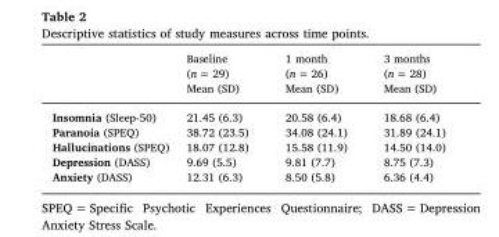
<table><thead><tr><td rowspan="2"></td><td rowspan="2">Baseline (n = 29) Mean (SD)</td><td rowspan="2">1 month (n = 26) Mean (SD)</td><td rowspan="2">3 months (n = 28) Mean (SD)</td></tr><tr></tr></thead><tbody><tr><td>Insomnia (Sleep-50)</td><td>21.45 (6.3)</td><td>20.58 (6.4)</td><td>18.68 (6.4)</td></tr><tr><td>Paranoia (SPEQ)</td><td>38.72 (23.5)</td><td>34.08 (24.1)</td><td>31.89 (24.1)</td></tr><tr><td>Hallucinations (SPEQ)</td><td>18.07 (12.8)</td><td>15.58 (11.9)</td><td>14.50 (14.0)</td></tr><tr><td>Depression (DASS)</td><td>9.69 (5.5)</td><td>9.81 (7.7)</td><td>8.75 (7.3)</td></tr><tr><td>Anxiety (DASS)</td><td>12.31 (6.3)</td><td>8.50 (5.8)</td><td>6.36 (4.4)</td></tr></tbody></table>